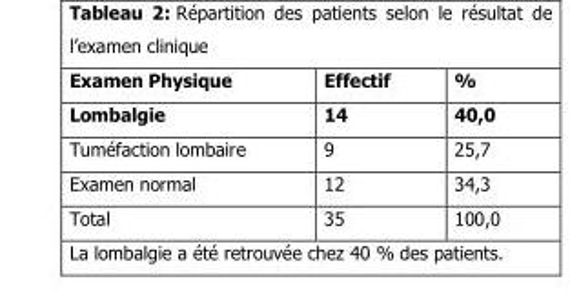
<table><thead><tr><td>Examen Physique</td><td>Effectif</td><td>%</td></tr></thead><tbody><tr><td>Lombalgie</td><td>14</td><td>40,0</td></tr><tr><td>Tuméfaction lombaire</td><td>9</td><td>25,7</td></tr><tr><td>Examen normal</td><td>12</td><td>34,3</td></tr><tr><td>Total</td><td>35</td><td>100,0</td></tr></tbody></table>